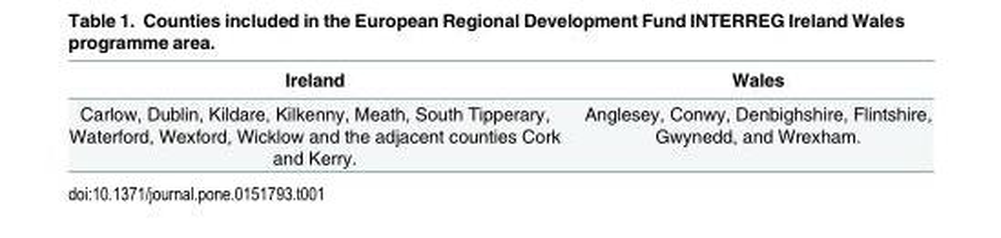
<table><thead><tr><td>Ireland</td><td>Wales</td></tr></thead><tbody><tr><td>Carlow, Dublin, Kildare, Kilkenny, Meath, South Tipperary, Waterford, Wexford, Wicklow and the adjacent counties Cork and Kerry.</td><td>Anglesey, Conwy, Denbighshire, Flintshire, Gwynedd, and Wrexham.</td></tr></tbody></table>